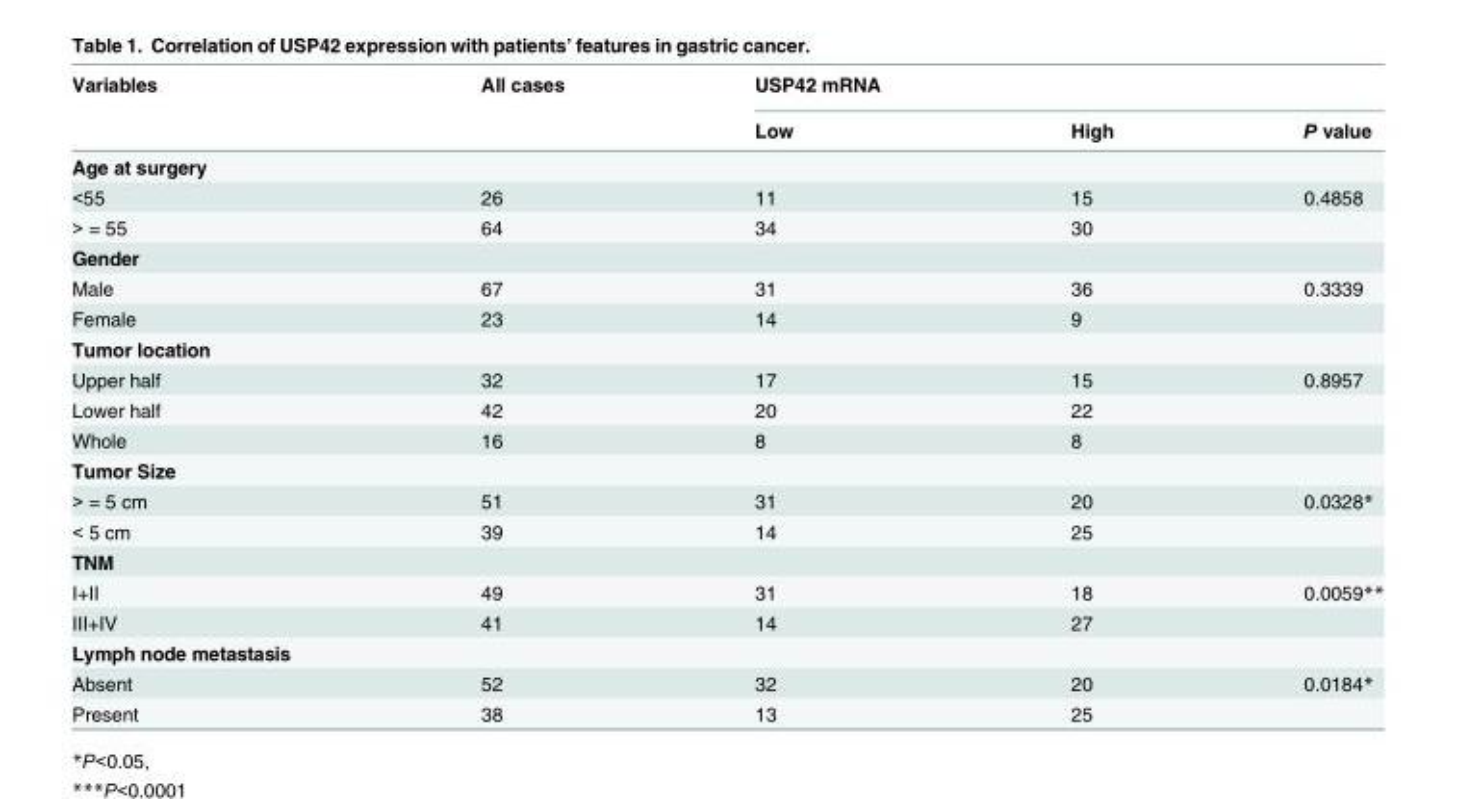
<table><thead><tr><td rowspan="2">Variables</td><td rowspan="2">All cases</td><td rowspan="2">USP42 mRNA Low</td><td rowspan="2">High</td><td rowspan="2">P value</td></tr><tr></tr></thead><tbody><tr><td colspan="5">Age at surgery</td></tr><tr><td>&lt;55</td><td>26</td><td>11</td><td>15</td><td>0.4858</td></tr><tr><td>&gt; = 55</td><td>64</td><td>34</td><td>30</td><td></td></tr><tr><td colspan="5">Gender</td></tr><tr><td>Male</td><td>67</td><td>31</td><td>36</td><td>0.3339</td></tr><tr><td>Female</td><td>23</td><td>14</td><td>9</td><td></td></tr><tr><td colspan="5">Tumor location</td></tr><tr><td>Upper half</td><td>32</td><td>17</td><td>15</td><td>0.8957</td></tr><tr><td>Lower half</td><td>42</td><td>20</td><td>22</td><td></td></tr><tr><td>Whole</td><td>16</td><td>8</td><td>8</td><td></td></tr><tr><td colspan="5">Tumor Size</td></tr><tr><td>&gt; = 5 cm</td><td>51</td><td>31</td><td>20</td><td>0.0328*</td></tr><tr><td>&lt; 5 cm</td><td>39</td><td>14</td><td>25</td><td></td></tr><tr><td colspan="5">TNM</td></tr><tr><td>I+II</td><td>49</td><td>31</td><td>18</td><td>0.0059**</td></tr><tr><td>III+IV</td><td>41</td><td>14</td><td>27</td><td></td></tr><tr><td colspan="5">Lymph node metastasis</td></tr><tr><td>Absent</td><td>52</td><td>32</td><td>20</td><td>0.0184*</td></tr><tr><td>Present</td><td>38</td><td>13</td><td>25</td><td></td></tr></tbody></table>